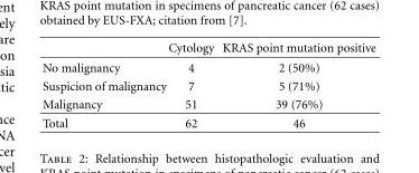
<table><thead><tr><td></td><td>Cytology</td><td>KRAS point mutation positive</td></tr></thead><tbody><tr><td>No malignancy</td><td>4</td><td>2 (50%)</td></tr><tr><td>Suspicion of malignancy</td><td>7</td><td>5 (71%)</td></tr><tr><td>Malignancy</td><td>51</td><td>39 (76%)</td></tr><tr><td>Total</td><td>62</td><td>46</td></tr></tbody></table>